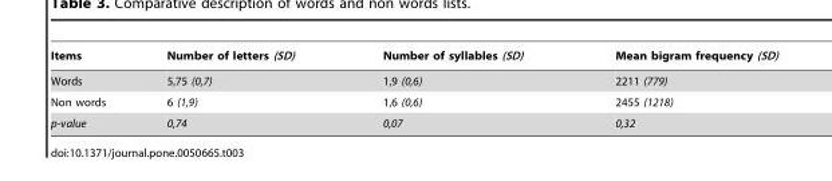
<table><thead><tr><td>Items</td><td>Number of letters (SD)</td><td>Number of syllables (SD)</td><td>Mean bigram frequency (SD)</td></tr></thead><tbody><tr><td>Words</td><td>5,75 (0,7)</td><td>1,9 (0,6)</td><td>2211 (779)</td></tr><tr><td>Non words</td><td>6 (1,9)</td><td>1,6 (0,6)</td><td>2455 (1218)</td></tr><tr><td>p-value</td><td>0,74</td><td>0,07</td><td>0,32</td></tr></tbody></table>